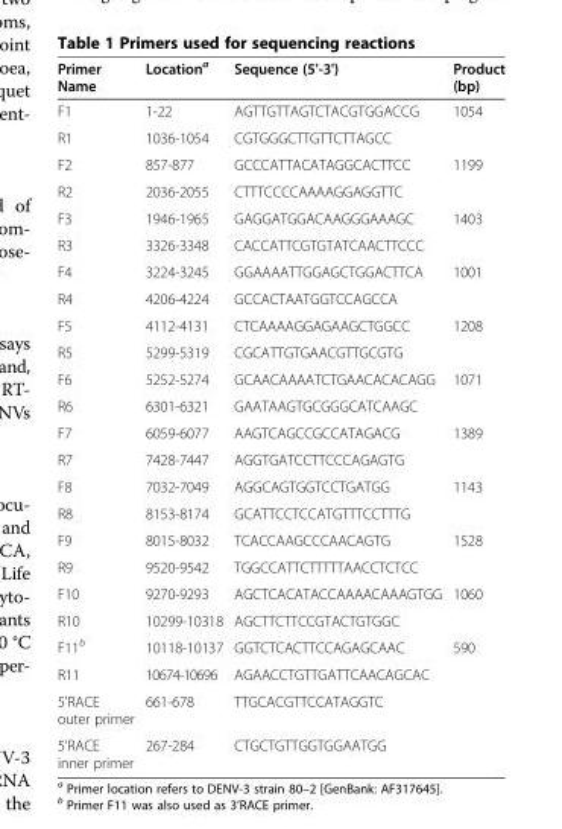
<table><thead><tr><td>Primer Name</td><td>Location<sup>a</sup></td><td>Sequence (5&#x27;-3&#x27;)</td><td>Product (bp)</td></tr></thead><tbody><tr><td>F1</td><td>1-22</td><td>AGTTGTTAGTCTACGTGGACCG</td><td>1054</td></tr><tr><td>R1</td><td>1036-1054</td><td>CGTGGGCTTGTTCTTAGCC</td><td></td></tr><tr><td>F2</td><td>857-877</td><td>GCCCATTACATAGGCACTTCC</td><td>1199</td></tr><tr><td>R2</td><td>2036-2055</td><td>CTTTCCCCAAAAGGAGGTTC</td><td></td></tr><tr><td>F3</td><td>1946-1965</td><td>GAGGATGGACAAGGGAAAGC</td><td>1403</td></tr><tr><td>R3</td><td>3326-3348</td><td>CACCATTCGTGTATCAACTTCCC</td><td></td></tr><tr><td>F4</td><td>3224-3245</td><td>GGAAAATTGGAGCTGGACTTCA</td><td>1001</td></tr><tr><td>R4</td><td>4206-4224</td><td>GCCACTAATGGTCCAGCCA</td><td></td></tr><tr><td>F5</td><td>4112-4131</td><td>CTCAAAAGGAGAAGCTGGCC</td><td>1208</td></tr><tr><td>R5</td><td>5299-5319</td><td>CGCATTGTGAACGTTGCGTG</td><td></td></tr><tr><td>F6</td><td>5252-5274</td><td>GCAACAAAATCTGAACACACAGG</td><td>1071</td></tr><tr><td>R6</td><td>6301-6321</td><td>GAATAAGTGCGGGCATCAAGC</td><td></td></tr><tr><td>F7</td><td>6059-6077</td><td>AAGTCAGCCGCCATAGACG</td><td>1389</td></tr><tr><td>R7</td><td>7428-7447</td><td>AGGTGATCCTTCCCAGAGTG</td><td></td></tr><tr><td>F8</td><td>7032-7049</td><td>AGGCAGTGGTCCTGATGG</td><td>1143</td></tr><tr><td>R8</td><td>8153-8174</td><td>GCATTCCTCCATGTTTCCTTTG</td><td></td></tr><tr><td>F9</td><td>8015-8032</td><td>TCACCAAGCCCAACAGTG</td><td>1528</td></tr><tr><td>R9</td><td>9520-9542</td><td>TGGCCATTCTTTTTAACCTCTCC</td><td></td></tr><tr><td>F10</td><td>9270-9293</td><td>AGCTCACATACCAAAACAAAGTGG</td><td>1060</td></tr><tr><td>R10</td><td>10299-10318</td><td>AGCTTCTTCCGTACTGTGGC</td><td></td></tr><tr><td>F11<sup>b</sup></td><td>10118-10137</td><td>GGTCTCACTTCCAGAGCAAC</td><td>590</td></tr><tr><td>R11</td><td>10674-10696</td><td>AGAACCTGTTGATTCAACAGCAC</td><td></td></tr><tr><td>5&#x27;RACE outer primer</td><td>661-678</td><td>TTGCACGTTCCATAGGTC</td><td></td></tr><tr><td>5&#x27;RACE inner primer</td><td>267-284</td><td>CTGCTGTTGGTGGAATGG</td><td></td></tr></tbody></table>